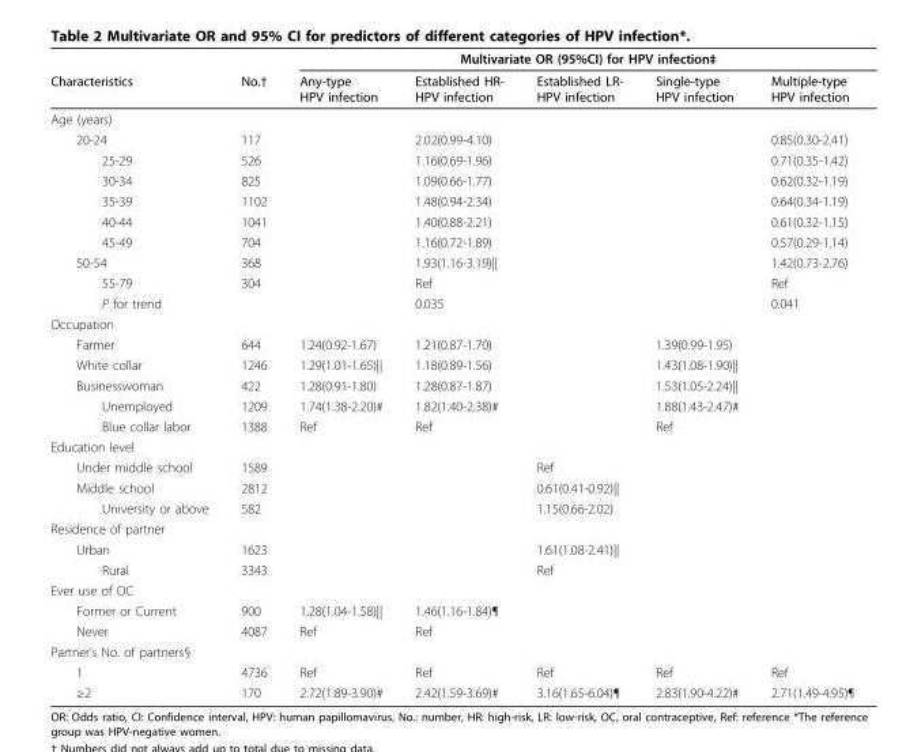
<table><thead><tr><td rowspan="2">Characteristics</td><td rowspan="2">No.†</td><td colspan="5">Multivariate OR (95%CI) for HPV infection‡</td></tr><tr><td>Any-type HPV infection</td><td>Established HR- HPV infection</td><td>Established LR- HPV infection</td><td>Single-type HPV infection</td><td>Multiple-type HPV infection</td></tr></thead><tbody><tr><td colspan="7">Age (years)</td></tr><tr><td>20-24</td><td>117</td><td></td><td>2.02(0.99-4.10)</td><td></td><td></td><td>0.85(0.30-2.41)</td></tr><tr><td>25-29</td><td>526</td><td></td><td>1.16(0.69-1.96)</td><td></td><td></td><td>0.71(0.35-1.42)</td></tr><tr><td>30-34</td><td>825</td><td></td><td>1.09(0.66-1.77)</td><td></td><td></td><td>0.62(0.32-1.19)</td></tr><tr><td>35-39</td><td>1102</td><td></td><td>1.48(0.94-2.34)</td><td></td><td></td><td>0.64(0.34-1.19)</td></tr><tr><td>40-44</td><td>1041</td><td></td><td>1.40(0.88-2.21)</td><td></td><td></td><td>0.61(0.32-1.15)</td></tr><tr><td>45-49</td><td>704</td><td></td><td>1.16(0.72-1.89)</td><td></td><td></td><td>0.57(0.29-1.14)</td></tr><tr><td>50-54</td><td>368</td><td></td><td>1.93(1.16-3.19)||</td><td></td><td></td><td>1.42(0.73-2.76)</td></tr><tr><td>55-79</td><td>304</td><td></td><td>Ref</td><td></td><td></td><td>Ref</td></tr><tr><td>P for trend</td><td></td><td></td><td>0.035</td><td></td><td></td><td>0.041</td></tr><tr><td colspan="7">Occupation</td></tr><tr><td>Farmer</td><td>644</td><td>1.24(0.92-1.67)</td><td>1.21(0.87-1.70)</td><td></td><td>1.39(0.99-1.95)</td><td></td></tr><tr><td>White collar</td><td>1246</td><td>1.29(1.01-1.65)||</td><td>1.18(0.89-1.56)</td><td></td><td>1.43(1.08-1.90)||</td><td></td></tr><tr><td>Businesswoman</td><td>422</td><td>1.28(0.91-1.80)</td><td>1.28(0.87-1.87)</td><td></td><td>1.53(1.05-2.24)||</td><td></td></tr><tr><td>Unemployed</td><td>1209</td><td>1.74(1.38-2.20)#</td><td>1.82(1.40-2.38)#</td><td></td><td>1.88(1.43-2.47)#</td><td></td></tr><tr><td>Blue collar labor</td><td>1388</td><td>Ref</td><td>Ref</td><td></td><td>Ref</td><td></td></tr><tr><td colspan="7">Education level</td></tr><tr><td>Under middle school</td><td>1589</td><td></td><td></td><td>Ref</td><td></td><td></td></tr><tr><td>Middle school</td><td>2812</td><td></td><td></td><td>0.61(0.41-0.92)||</td><td></td><td></td></tr><tr><td>University or above</td><td>582</td><td></td><td></td><td>1.15(0.66-2.02)</td><td></td><td></td></tr><tr><td colspan="7">Residence of partner</td></tr><tr><td>Urban</td><td>1623</td><td></td><td></td><td>1.61(1.08-2.41)||</td><td></td><td></td></tr><tr><td>Rural</td><td>3343</td><td></td><td></td><td>Ref</td><td></td><td></td></tr><tr><td colspan="7">Ever use of OC</td></tr><tr><td>Former or Current</td><td>900</td><td>1.28(1.04-1.58)||</td><td>1.46(1.16-1.84)¶</td><td></td><td></td><td></td></tr><tr><td>Never</td><td>4087</td><td>Ref</td><td>Ref</td><td></td><td></td><td></td></tr><tr><td colspan="7">Partner’s No. of partners§</td></tr><tr><td>1</td><td>4736</td><td>Ref</td><td>Ref</td><td>Ref</td><td>Ref</td><td>Ref</td></tr><tr><td>≥2</td><td>170</td><td>2.72(1.89-3.90)#</td><td>2.42(1.59-3.69)#</td><td>3.16(1.65-6.04)¶</td><td>2.83(1.90-4.22)#</td><td>2.71(1.49-4.95)¶</td></tr></tbody></table>